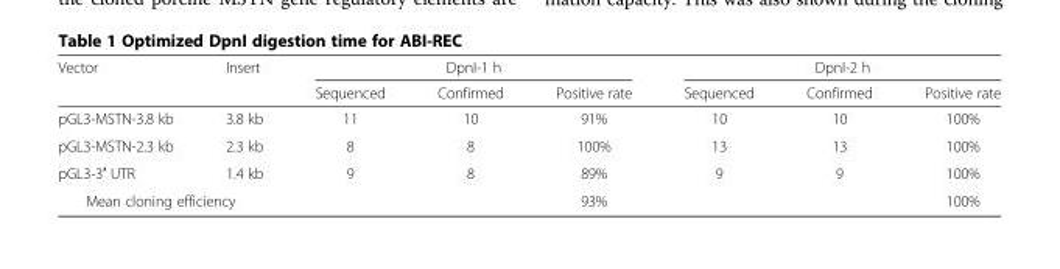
<table><thead><tr><td rowspan="2">Vector</td><td rowspan="2">Insert</td><td colspan="3">DpnI-1 h</td><td colspan="3">DpnI-2 h</td></tr><tr><td>Sequenced</td><td>Confirmed</td><td>Positive rate</td><td>Sequenced</td><td>Confirmed</td><td>Positive rate</td></tr></thead><tbody><tr><td>pGL3-MSTN-3.8 kb</td><td>3.8 kb</td><td>11</td><td>10</td><td>91%</td><td>10</td><td>10</td><td>100%</td></tr><tr><td>pGL3-MSTN-2.3 kb</td><td>2.3 kb</td><td>8</td><td>8</td><td>100%</td><td>13</td><td>13</td><td>100%</td></tr><tr><td>pGL3-3′ UTR</td><td>1.4 kb</td><td>9</td><td>8</td><td>89%</td><td>9</td><td>9</td><td>100%</td></tr><tr><td colspan="2">Mean cloning efficiency</td><td colspan="2"></td><td>93%</td><td colspan="2"></td><td>100%</td></tr></tbody></table>